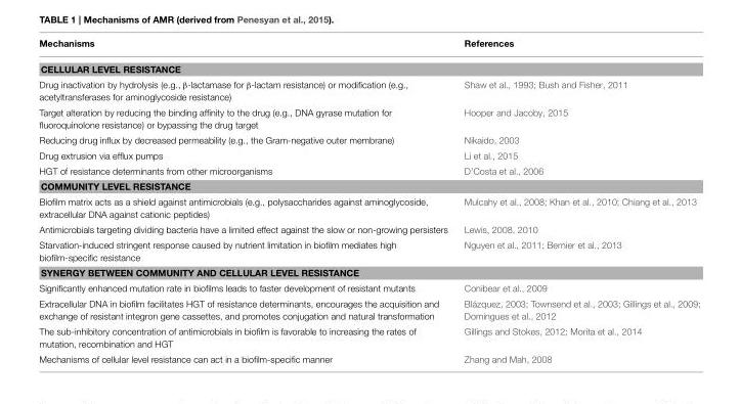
<table><thead><tr><td>Mechanisms</td><td>References</td></tr></thead><tbody><tr><td colspan="2">CELLULAR LEVEL RESISTANCE</td></tr><tr><td>Drug inactivation by hydrolysis (e.g., β-lactamase for β-lactam resistance) or modification (e.g., acetyltransferases for aminoglycoside resistance)</td><td>Shaw et al., 1993; Bush and Fisher, 2011</td></tr><tr><td>Target alteration by reducing the binding affinity to the drug (e.g., DNA gyrase mutation for fluoroquinolone resistance) or bypassing the drug target</td><td>Hooper and Jacoby, 2015</td></tr><tr><td>Reducing drug influx by decreased permeability (e.g., the Gram-negative outer membrane)</td><td>Nikaido, 2003</td></tr><tr><td>Drug extrusion via efflux pumps</td><td>Li et al., 2015</td></tr><tr><td>HGT of resistance determinants from other microorganisms</td><td>D’Costa et al., 2006</td></tr><tr><td colspan="2">COMMUNITY LEVEL RESISTANCE</td></tr><tr><td>Biofilm matrix acts as a shield against antimicrobials (e.g., polysaccharides against aminoglycoside, extracellular DNA against cationic peptides)</td><td>Mulcahy et al., 2008; Khan et al., 2010; Chiang et al., 2013</td></tr><tr><td>Antimicrobials targeting dividing bacteria have a limited effect against the slow or non-growing persisters</td><td>Lewis, 2008, 2010</td></tr><tr><td>Starvation-induced stringent response caused by nutrient limitation in biofilm mediates high biofilm-specific resistance</td><td>Nguyen et al., 2011; Bernier et al., 2013</td></tr><tr><td colspan="2">SYNERGY BETWEEN COMMUNITY AND CELLULAR LEVEL RESISTANCE</td></tr><tr><td>Significantly enhanced mutation rate in biofilms leads to faster development of resistant mutants</td><td>Conibear et al., 2009</td></tr><tr><td>Extracellular DNA in biofilm facilitates HGT of resistance determinants, encourages the acquisition and exchange of resistant integron gene cassettes, and promotes conjugation and natural transformation</td><td>Blázquez, 2003; Townsend et al., 2003; Gillings et al., 2009; Domingues et al., 2012</td></tr><tr><td>The sub-inhibitory concentration of antimicrobials in biofilm is favorable to increasing the rates of mutation, recombination and HGT</td><td>Gillings and Stokes, 2012; Morita et al., 2014</td></tr><tr><td>Mechanisms of cellular level resistance can act in a biofilm-specific manner</td><td>Zhang and Mah, 2008</td></tr></tbody></table>